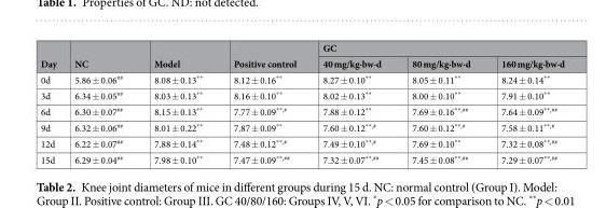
<table><thead><tr><td rowspan="2">Day</td><td rowspan="2">NC</td><td rowspan="2">Model</td><td rowspan="2">Positive control</td><td colspan="3">GC</td></tr><tr><td>40 mg/kg·bw·d</td><td>80 mg/kg·bw·d</td><td>160 mg/kg·bw·d</td></tr></thead><tbody><tr><td>0d</td><td>5.86 ± 0.06<sup>##</sup></td><td>8.08 ± 0.13**</td><td>8.12 ± 0.16**</td><td>8.27 ± 0.10**</td><td>8.05 ± 0.11**</td><td>8.24 ± 0.14**</td></tr><tr><td>3d</td><td>6.34 ± 0.05<sup>##</sup></td><td>8.03 ± 0.13**</td><td>8.16 ± 0.10**</td><td>8.02 ± 0.13**</td><td>8.00 ± 0.10**</td><td>7.91 ± 0.10**</td></tr><tr><td>6d</td><td>6.30 ± 0.07<sup>##</sup></td><td>8.15 ± 0.13**</td><td>7.77 ± 0.09<sup>**,#</sup></td><td>7.88 ± 0.12**</td><td>7.69 ± 0.16<sup>**,##</sup></td><td>7.64 ± 0.09<sup>**,##</sup></td></tr><tr><td>9d</td><td>6.32 ± 0.06<sup>##</sup></td><td>8.01 ± 0.22**</td><td>7.87 ± 0.09**</td><td>7.60 ± 0.12<sup>**,#</sup></td><td>7.60 ± 0.12<sup>**,#</sup></td><td>7.58 ± 0.11<sup>**,#</sup></td></tr><tr><td>12d</td><td>6.22 ± 0.07<sup>##</sup></td><td>7.88 ± 0.14**</td><td>7.48 ± 0.12<sup>**,#</sup></td><td>7.49 ± 0.10<sup>**,#</sup></td><td>7.69 ± 0.10**</td><td>7.32 ± 0.08<sup>**,##</sup></td></tr><tr><td>15d</td><td>6.29 ± 0.04<sup>##</sup></td><td>7.98 ± 0.10**</td><td>7.47 ± 0.09<sup>**,##</sup></td><td>7.32 ± 0.07<sup>**,##</sup></td><td>7.45 ± 0.08<sup>**,##</sup></td><td>7.29 ± 0.07<sup>**,##</sup></td></tr></tbody></table>